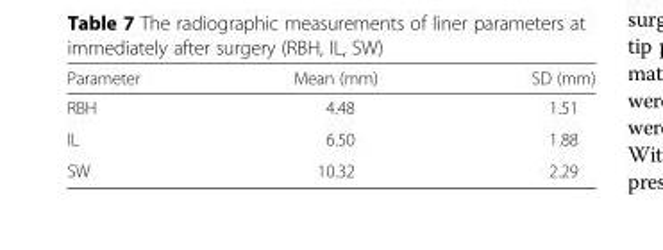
<table><thead><tr><td>Parameter</td><td>Mean (mm)</td><td>SD (mm)</td></tr></thead><tbody><tr><td>RBH</td><td>4.48</td><td>1.51</td></tr><tr><td>IL</td><td>6.50</td><td>1.88</td></tr><tr><td>SW</td><td>10.32</td><td>2.29</td></tr></tbody></table>